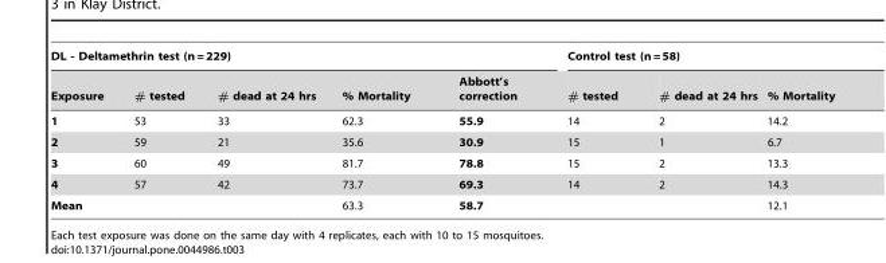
<table><thead><tr><td colspan="5">DL - Deltamethrin test (n = 229)</td><td colspan="3">Control test (n = 58)</td></tr><tr><td>Exposure</td><td># tested</td><td># dead at 24 hrs</td><td>% Mortality</td><td>Abbott’s correction</td><td># tested</td><td># dead at 24 hrs</td><td>% Mortality</td></tr></thead><tbody><tr><td>1</td><td>53</td><td>33</td><td>62.3</td><td>55.9</td><td>14</td><td>2</td><td>14.2</td></tr><tr><td>2</td><td>59</td><td>21</td><td>35.6</td><td>30.9</td><td>15</td><td>1</td><td>6.7</td></tr><tr><td>3</td><td>60</td><td>49</td><td>81.7</td><td>78.8</td><td>15</td><td>2</td><td>13.3</td></tr><tr><td>4</td><td>57</td><td>42</td><td>73.7</td><td>69.3</td><td>14</td><td>2</td><td>14.3</td></tr><tr><td>Mean</td><td></td><td></td><td>63.3</td><td>58.7</td><td></td><td></td><td>12.1</td></tr></tbody></table>